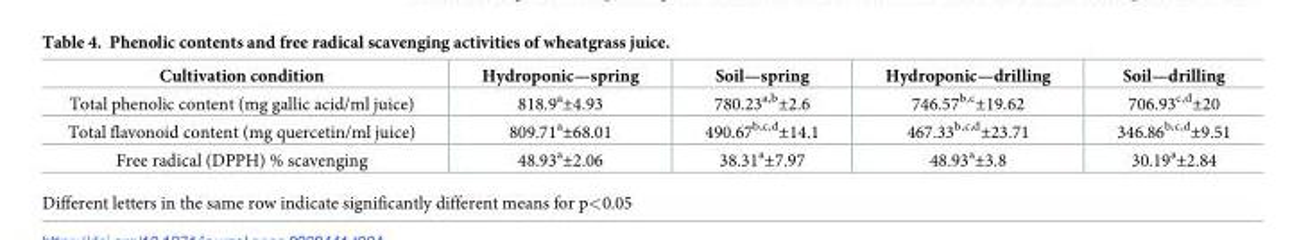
<table><thead><tr><td>Cultivation condition</td><td>Hydroponic—spring</td><td>Soil—spring</td><td>Hydroponic—drilling</td><td>Soil—drilling</td></tr></thead><tbody><tr><td>Total phenolic content (mg gallic acid/ml juice)</td><td>818.9<sup>a</sup>±4.93</td><td>780.23<sup>a,b</sup>±2.6</td><td>746.57<sup>b,c</sup>±19.62</td><td>706.93<sup>c,d</sup>±20</td></tr><tr><td>Total flavonoid content (mg quercetin/ml juice)</td><td>809.71<sup>a</sup>±68.01</td><td>490.67<sup>b,c,d</sup>±14.1</td><td>467.33<sup>b,c,d</sup>±23.71</td><td>346.86<sup>b,c,d</sup>±9.51</td></tr><tr><td>Free radical (DPPH) % scavenging</td><td>48.93<sup>a</sup>±2.06</td><td>38.31<sup>a</sup>±7.97</td><td>48.93<sup>a</sup>±3.8</td><td>30.19<sup>a</sup>±2.84</td></tr></tbody></table>